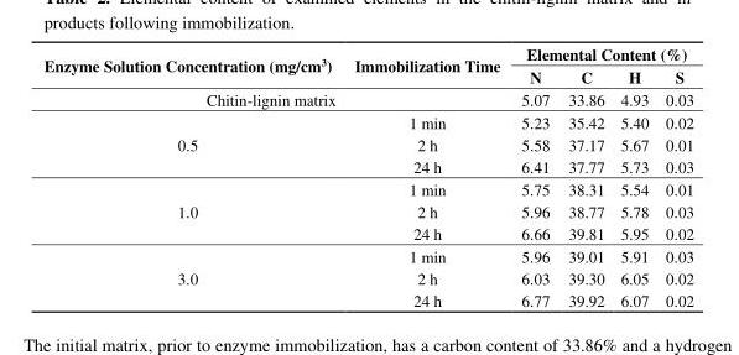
<table><thead><tr><td rowspan="2">Enzyme Solution Concentration (mg/cm<sup>3</sup>)</td><td rowspan="2">Immobilization Time</td><td colspan="4">Elemental Content (%)</td></tr><tr><td>N</td><td>C</td><td>H</td><td>S</td></tr></thead><tbody><tr><td colspan="2">Chitin-lignin matrix</td><td>5.07</td><td>33.86</td><td>4.93</td><td>0.03</td></tr><tr><td rowspan="3">0.5</td><td>1 min</td><td>5.23</td><td>35.42</td><td>5.40</td><td>0.02</td></tr><tr><td>2 h</td><td>5.58</td><td>37.17</td><td>5.67</td><td>0.01</td></tr><tr><td>24 h</td><td>6.41</td><td>37.77</td><td>5.73</td><td>0.03</td></tr><tr><td rowspan="3">1.0</td><td>1 min</td><td>5.75</td><td>38.31</td><td>5.54</td><td>0.01</td></tr><tr><td>2 h</td><td>5.96</td><td>38.77</td><td>5.78</td><td>0.03</td></tr><tr><td>24 h</td><td>6.66</td><td>39.81</td><td>5.95</td><td>0.02</td></tr><tr><td rowspan="3">3.0</td><td>1 min</td><td>5.96</td><td>39.01</td><td>5.91</td><td>0.03</td></tr><tr><td>2 h</td><td>6.03</td><td>39.30</td><td>6.05</td><td>0.02</td></tr><tr><td>24 h</td><td>6.77</td><td>39.92</td><td>6.07</td><td>0.02</td></tr></tbody></table>